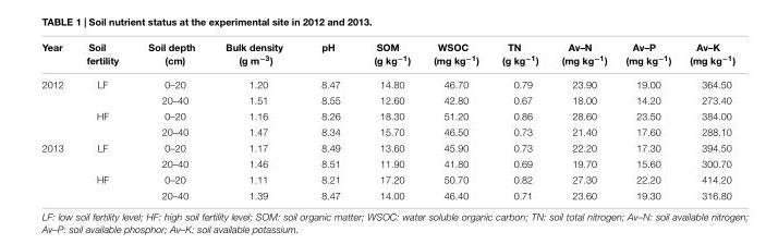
<table><thead><tr><td>Year</td><td>Soil fertility</td><td>Soil depth (cm)</td><td>Bulk density (g m<sup>−3</sup>)</td><td>pH</td><td>SOM (g kg<sup>−1</sup>)</td><td>WSOC (mg kg<sup>−1</sup>)</td><td>TN (g kg<sup>−1</sup>)</td><td>Av–N (mg kg<sup>−1</sup>)</td><td>Av–P (mg kg<sup>−1</sup>)</td><td>Av–K (mg kg<sup>−1</sup>)</td></tr></thead><tbody><tr><td rowspan="4">2012</td><td>LF</td><td>0–20</td><td>1.20</td><td>8.47</td><td>14.80</td><td>46.70</td><td>0.79</td><td>23.90</td><td>19.00</td><td>364.50</td></tr><tr><td></td><td>20–40</td><td>1.51</td><td>8.55</td><td>12.60</td><td>42.80</td><td>0.67</td><td>18.00</td><td>14.20</td><td>273.40</td></tr><tr><td>HF</td><td>0–20</td><td>1.16</td><td>8.26</td><td>18.30</td><td>51.20</td><td>0.86</td><td>28.60</td><td>23.50</td><td>384.00</td></tr><tr><td></td><td>20–40</td><td>1.47</td><td>8.34</td><td>15.70</td><td>46.50</td><td>0.73</td><td>21.40</td><td>17.60</td><td>288.10</td></tr><tr><td rowspan="4">2013</td><td>LF</td><td>0–20</td><td>1.17</td><td>8.49</td><td>13.60</td><td>45.90</td><td>0.73</td><td>22.20</td><td>17.30</td><td>394.50</td></tr><tr><td></td><td>20–40</td><td>1.46</td><td>8.51</td><td>11.90</td><td>41.80</td><td>0.69</td><td>19.70</td><td>15.60</td><td>300.70</td></tr><tr><td>HF</td><td>0–20</td><td>1.11</td><td>8.21</td><td>17.20</td><td>50.70</td><td>0.82</td><td>27.30</td><td>22.20</td><td>414.20</td></tr><tr><td></td><td>20–40</td><td>1.39</td><td>8.47</td><td>14.00</td><td>46.40</td><td>0.71</td><td>23.60</td><td>19.30</td><td>316.80</td></tr></tbody></table>